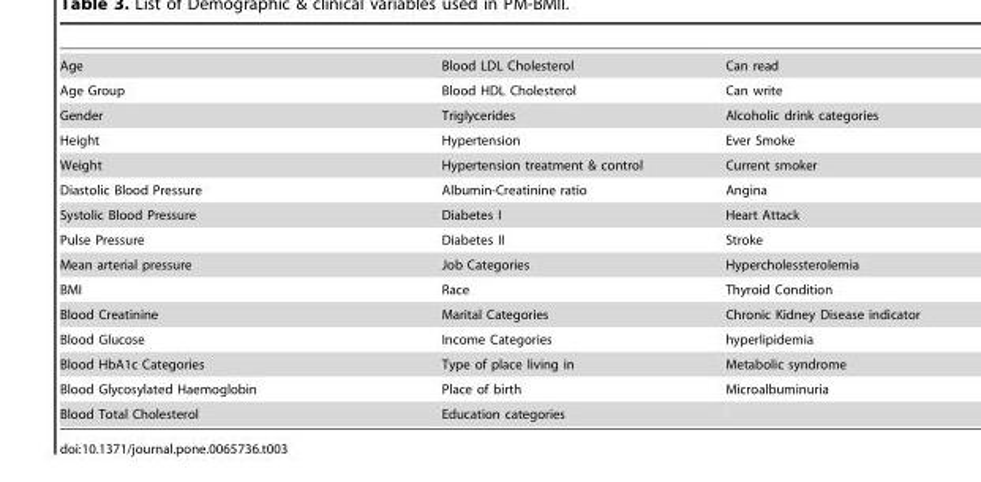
<table><tbody><tr><td>Age</td><td>Blood LDL Cholesterol</td><td>Can read</td></tr><tr><td>Age Group</td><td>Blood HDL Cholesterol</td><td>Can write</td></tr><tr><td>Gender</td><td>Triglycerides</td><td>Alcoholic drink categories</td></tr><tr><td>Height</td><td>Hypertension</td><td>Ever Smoke</td></tr><tr><td>Weight</td><td>Hypertension treatment &amp; control</td><td>Current smoker</td></tr><tr><td>Diastolic Blood Pressure</td><td>Albumin-Creatinine ratio</td><td>Angina</td></tr><tr><td>Systolic Blood Pressure</td><td>Diabetes I</td><td>Heart Attack</td></tr><tr><td>Pulse Pressure</td><td>Diabetes II</td><td>Stroke</td></tr><tr><td>Mean arterial pressure</td><td>Job Categories</td><td>Hypercholessterolemia</td></tr><tr><td>BMI</td><td>Race</td><td>Thyroid Condition</td></tr><tr><td>Blood Creatinine</td><td>Marital Categories</td><td>Chronic Kidney Disease indicator</td></tr><tr><td>Blood Glucose</td><td>Income Categories</td><td>hyperlipidemia</td></tr><tr><td>Blood HbA1c Categories</td><td>Type of place living in</td><td>Metabolic syndrome</td></tr><tr><td>Blood Glycosylated Haemoglobin</td><td>Place of birth</td><td>Microalbuminuria</td></tr><tr><td>Blood Total Cholesterol</td><td>Education categories</td><td></td></tr></tbody></table>